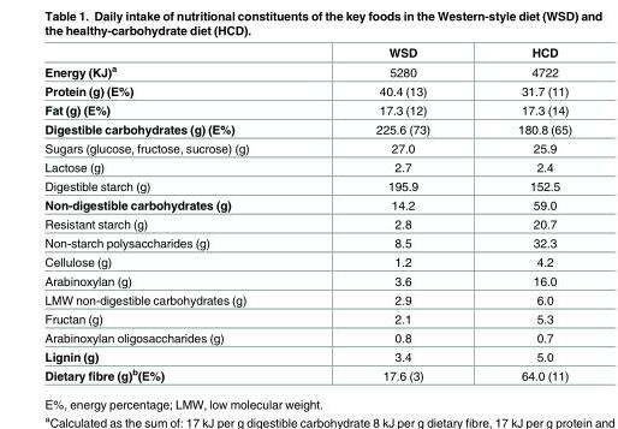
<table><thead><tr><td></td><td>WSD</td><td>HCD</td></tr></thead><tbody><tr><td>Energy (KJ)<sup>a</sup></td><td>5280</td><td>4722</td></tr><tr><td>Protein (g) (E%)</td><td>40.4 (13)</td><td>31.7 (11)</td></tr><tr><td>Fat (g) (E%)</td><td>17.3 (12)</td><td>17.3 (14)</td></tr><tr><td>Digestible carbohydrates (g) (E%)</td><td>225.6 (73)</td><td>180.8 (65)</td></tr><tr><td>Sugars (glucose, fructose, sucrose) (g)</td><td>27.0</td><td>25.9</td></tr><tr><td>Lactose (g)</td><td>2.7</td><td>2.4</td></tr><tr><td>Digestible starch (g)</td><td>195.9</td><td>152.5</td></tr><tr><td>Non-digestible carbohydrates (g)</td><td>14.2</td><td>59.0</td></tr><tr><td>Resistant starch (g)</td><td>2.8</td><td>20.7</td></tr><tr><td>Non-starch polysaccharides (g)</td><td>8.5</td><td>32.3</td></tr><tr><td>Cellulose (g)</td><td>1.2</td><td>4.2</td></tr><tr><td>Arabinoxylan (g)</td><td>3.6</td><td>16.0</td></tr><tr><td>LMW non-digestible carbohydrates (g)</td><td>2.9</td><td>6.0</td></tr><tr><td>Fructan (g)</td><td>2.1</td><td>5.3</td></tr><tr><td>Arabinoxylan oligosaccharides (g)</td><td>0.8</td><td>0.7</td></tr><tr><td>Lignin (g)</td><td>3.4</td><td>5.0</td></tr><tr><td>Dietary fibre (g)<sup>b</sup>(E%)</td><td>17.6 (3)</td><td>64.0 (11)</td></tr></tbody></table>